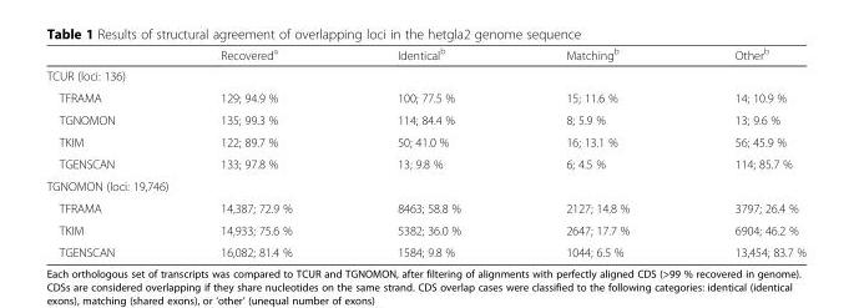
<table><thead><tr><td></td><td>Recovered<sup>a</sup></td><td>Identical<sup>b</sup></td><td>Matching<sup>b</sup></td><td>Other<sup>b</sup></td></tr></thead><tbody><tr><td colspan="5">TCUR (loci: 136)</td></tr><tr><td>TFRAMA</td><td>129; 94.9 %</td><td>100; 77.5 %</td><td>15; 11.6 %</td><td>14; 10.9 %</td></tr><tr><td>TGNOMON</td><td>135; 99.3 %</td><td>114; 84.4 %</td><td>8; 5.9 %</td><td>13; 9.6 %</td></tr><tr><td>TKIM</td><td>122; 89.7 %</td><td>50; 41.0 %</td><td>16; 13.1 %</td><td>56; 45.9 %</td></tr><tr><td>TGENSCAN</td><td>133; 97.8 %</td><td>13; 9.8 %</td><td>6; 4.5 %</td><td>114; 85.7 %</td></tr><tr><td colspan="5">TGNOMON (loci: 19,746)</td></tr><tr><td>TFRAMA</td><td>14,387; 72.9 %</td><td>8463; 58.8 %</td><td>2127; 14.8 %</td><td>3797; 26.4 %</td></tr><tr><td>TKIM</td><td>14,933; 75.6 %</td><td>5382; 36.0 %</td><td>2647; 17.7 %</td><td>6904; 46.2 %</td></tr><tr><td>TGENSCAN</td><td>16,082; 81.4 %</td><td>1584; 9.8 %</td><td>1044; 6.5 %</td><td>13,454; 83.7 %</td></tr></tbody></table>